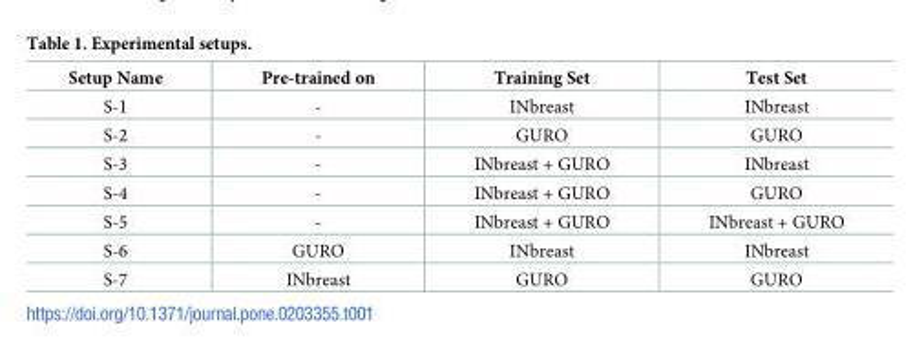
<table><thead><tr><td>Setup Name</td><td>Pre-trained on</td><td>Training Set</td><td>Test Set</td></tr></thead><tbody><tr><td>S-1</td><td>-</td><td>INbreast</td><td>INbreast</td></tr><tr><td>S-2</td><td>-</td><td>GURO</td><td>GURO</td></tr><tr><td>S-3</td><td>-</td><td>INbreast + GURO</td><td>INbreast</td></tr><tr><td>S-4</td><td>-</td><td>INbreast + GURO</td><td>GURO</td></tr><tr><td>S-5</td><td>-</td><td>INbreast + GURO</td><td>INbreast + GURO</td></tr><tr><td>S-6</td><td>GURO</td><td>INbreast</td><td>INbreast</td></tr><tr><td>S-7</td><td>INbreast</td><td>GURO</td><td>GURO</td></tr></tbody></table>